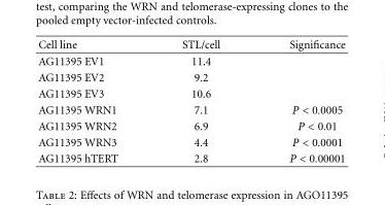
<table><thead><tr><td>Cell line</td><td>STL/cell</td><td>Significance</td></tr></thead><tbody><tr><td>AG11395 EV1</td><td>11.4</td><td></td></tr><tr><td>AG11395 EV2</td><td>9.2</td><td></td></tr><tr><td>AG11395 EV3</td><td>10.6</td><td></td></tr><tr><td>AG11395 WRN1</td><td>7.1</td><td>P &lt; 0.0005</td></tr><tr><td>AG11395 WRN2</td><td>6.9</td><td>P &lt; 0.01</td></tr><tr><td>AG11395 WRN3</td><td>4.4</td><td>P &lt; 0.0001</td></tr><tr><td>AG11395 hTERT</td><td>2.8</td><td>P &lt; 0.00001</td></tr></tbody></table>